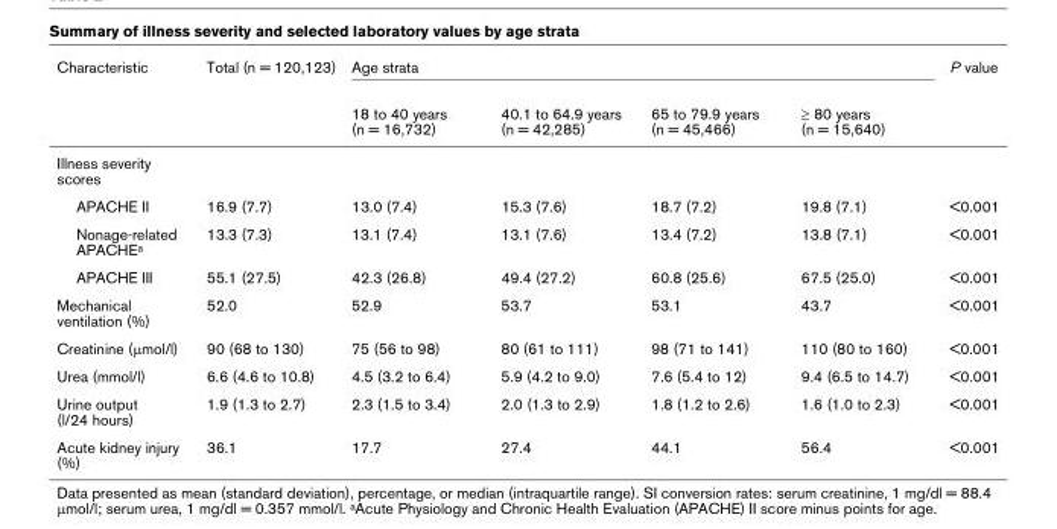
<table><thead><tr><td rowspan="2">Characteristic</td><td rowspan="2">Total (n = 120,123)</td><td colspan="4">Age strata</td><td rowspan="2">P value</td></tr><tr><td>18 to 40 years (n = 16,732)</td><td>40.1 to 64.9 years (n = 42,285)</td><td>65 to 79.9 years (n = 45,466)</td><td>≥ 80 years (n = 15,640)</td></tr></thead><tbody><tr><td colspan="7">Illness severity scores</td></tr><tr><td>APACHE II</td><td>16.9 (7.7)</td><td>13.0 (7.4)</td><td>15.3 (7.6)</td><td>18.7 (7.2)</td><td>19.8 (7.1)</td><td>&lt;0.001</td></tr><tr><td>Nonage-related APACHE<sup>a</sup></td><td>13.3 (7.3)</td><td>13.1 (7.4)</td><td>13.1 (7.6)</td><td>13.4 (7.2)</td><td>13.8 (7.1)</td><td>&lt;0.001</td></tr><tr><td>APACHE III</td><td>55.1 (27.5)</td><td>42.3 (26.8)</td><td>49.4 (27.2)</td><td>60.8 (25.6)</td><td>67.5 (25.0)</td><td>&lt;0.001</td></tr><tr><td>Mechanical ventilation (%)</td><td>52.0</td><td>52.9</td><td>53.7</td><td>53.1</td><td>43.7</td><td>&lt;0.001</td></tr><tr><td>Creatinine (μmol/l)</td><td>90 (68 to 130)</td><td>75 (56 to 98)</td><td>80 (61 to 111)</td><td>98 (71 to 141)</td><td>110 (80 to 160)</td><td>&lt;0.001</td></tr><tr><td>Urea (mmol/l)</td><td>6.6 (4.6 to 10.8)</td><td>4.5 (3.2 to 6.4)</td><td>5.9 (4.2 to 9.0)</td><td>7.6 (5.4 to 12)</td><td>9.4 (6.5 to 14.7)</td><td>&lt;0.001</td></tr><tr><td>Urine output (l/24 hours)</td><td>1.9 (1.3 to 2.7)</td><td>2.3 (1.5 to 3.4)</td><td>2.0 (1.3 to 2.9)</td><td>1.8 (1.2 to 2.6)</td><td>1.6 (1.0 to 2.3)</td><td>&lt;0.001</td></tr><tr><td>Acute kidney injury (%)</td><td>36.1</td><td>17.7</td><td>27.4</td><td>44.1</td><td>56.4</td><td>&lt;0.001</td></tr></tbody></table>